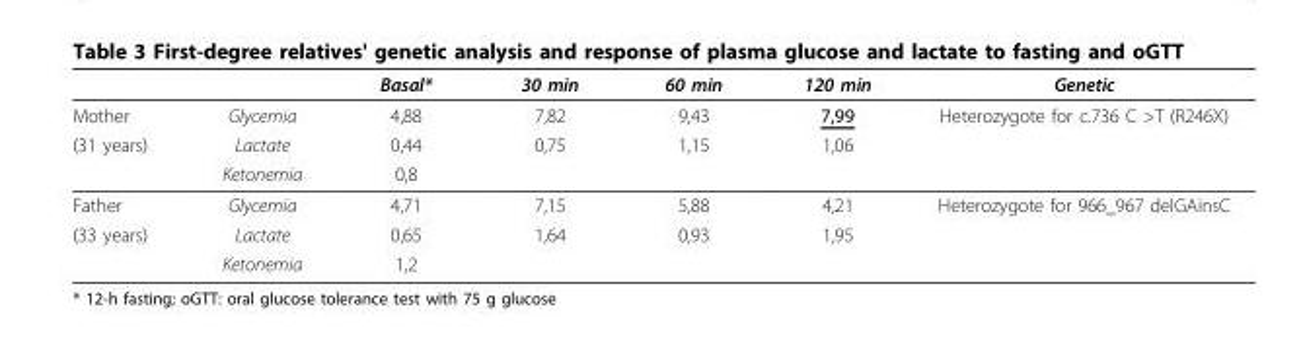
<table><thead><tr><td></td><td></td><td>Basal*</td><td>30 min</td><td>60 min</td><td>120 min</td><td>Genetic</td></tr></thead><tbody><tr><td>Mother</td><td>Glycemia</td><td>4,88</td><td>7,82</td><td>9,43</td><td>7,99</td><td>Heterozygote for c.736 C &gt;T (R246X)</td></tr><tr><td rowspan="2">(31 years)</td><td>Lactate</td><td>0,44</td><td>0,75</td><td>1,15</td><td>1,06</td><td></td></tr><tr><td>Ketonemia</td><td>0,8</td><td></td><td></td><td></td><td></td></tr><tr><td>Father</td><td>Glycemia</td><td>4,71</td><td>7,15</td><td>5,88</td><td>4,21</td><td>Heterozygote for 966_967 delGAinsC</td></tr><tr><td rowspan="2">(33 years)</td><td>Lactate</td><td>0,65</td><td>1,64</td><td>0,93</td><td>1,95</td><td></td></tr><tr><td>Ketonemia</td><td>1,2</td><td></td><td></td><td></td><td></td></tr></tbody></table>